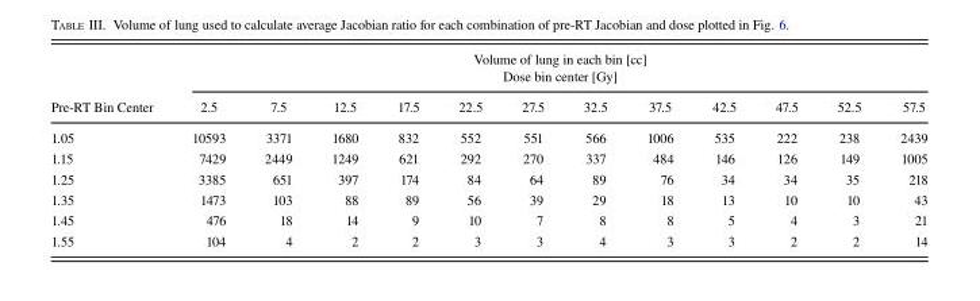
<table><thead><tr><td rowspan="3">Pre-RT Bin Center</td><td rowspan="2" colspan="12">Volume of lung in each bin [cc] Dose bin center [Gy]</td></tr><tr></tr><tr><td>2.5</td><td>7.5</td><td>12.5</td><td>17.5</td><td>22.5</td><td>27.5</td><td>32.5</td><td>37.5</td><td>42.5</td><td>47.5</td><td>52.5</td><td>57.5</td></tr></thead><tbody><tr><td>1.05</td><td>10593</td><td>3371</td><td>1680</td><td>832</td><td>552</td><td>551</td><td>566</td><td>1006</td><td>535</td><td>222</td><td>238</td><td>2439</td></tr><tr><td>1.15</td><td>7429</td><td>2449</td><td>1249</td><td>621</td><td>292</td><td>270</td><td>337</td><td>484</td><td>146</td><td>126</td><td>149</td><td>1005</td></tr><tr><td>1.25</td><td>3385</td><td>651</td><td>397</td><td>174</td><td>84</td><td>64</td><td>89</td><td>76</td><td>34</td><td>34</td><td>35</td><td>218</td></tr><tr><td>1.35</td><td>1473</td><td>103</td><td>88</td><td>89</td><td>56</td><td>39</td><td>29</td><td>18</td><td>13</td><td>10</td><td>10</td><td>43</td></tr><tr><td>1.45</td><td>476</td><td>18</td><td>14</td><td>9</td><td>10</td><td>7</td><td>8</td><td>8</td><td>5</td><td>4</td><td>3</td><td>21</td></tr><tr><td>1.55</td><td>104</td><td>4</td><td>2</td><td>2</td><td>3</td><td>3</td><td>4</td><td>3</td><td>3</td><td>2</td><td>2</td><td>14</td></tr></tbody></table>